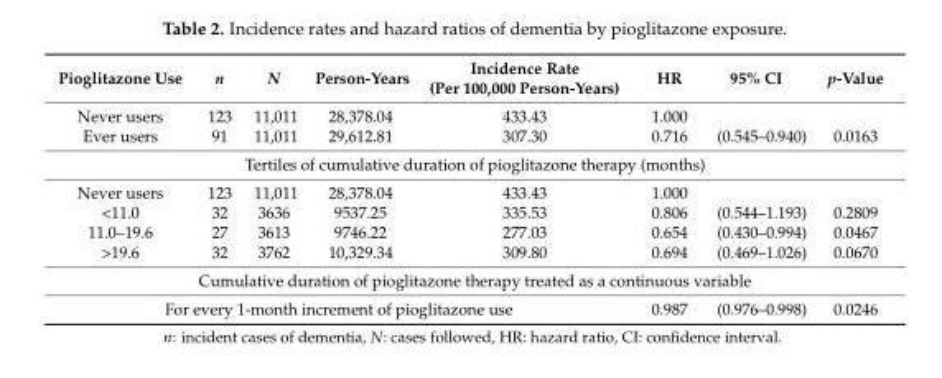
<table><thead><tr><td>Pioglitazone Use</td><td>n</td><td>N</td><td>Person-Years</td><td>Incidence Rate (Per 100,000 Person-Years)</td><td>HR</td><td>95% CI</td><td>p-Value</td></tr></thead><tbody><tr><td>Never users</td><td>123</td><td>11,011</td><td>28,378.04</td><td>433.43</td><td>1.000</td><td></td><td></td></tr><tr><td>Ever users</td><td>91</td><td>11,011</td><td>29,612.81</td><td>307.30</td><td>0.716</td><td>(0.545–0.940)</td><td>0.0163</td></tr><tr><td colspan="8">Tertiles of cumulative duration of pioglitazone therapy (months)</td></tr><tr><td>Never users</td><td>123</td><td>11,011</td><td>28,378.04</td><td>433.43</td><td>1.000</td><td></td><td></td></tr><tr><td>&lt;11.0</td><td>32</td><td>3636</td><td>9537.25</td><td>335.53</td><td>0.806</td><td>(0.544–1.193)</td><td>0.2809</td></tr><tr><td>11.0–19.6</td><td>27</td><td>3613</td><td>9746.22</td><td>277.03</td><td>0.654</td><td>(0.430–0.994)</td><td>0.0467</td></tr><tr><td>&gt;19.6</td><td>32</td><td>3762</td><td>10,329.34</td><td>309.80</td><td>0.694</td><td>(0.469–1.026)</td><td>0.0670</td></tr><tr><td colspan="8">Cumulative duration of pioglitazone therapy treated as a continuous variable</td></tr><tr><td colspan="5">For every 1-month increment of pioglitazone use</td><td>0.987</td><td>(0.976–0.998)</td><td>0.0246</td></tr></tbody></table>